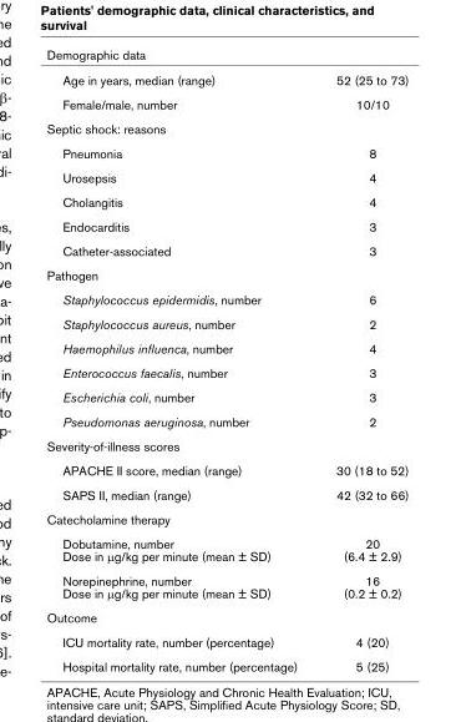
<table><thead><tr><td>Demographic data</td><td></td></tr></thead><tbody><tr><td>Age in years, median (range)</td><td>52 (25 to 73)</td></tr><tr><td>Female/male, number</td><td>10/10</td></tr><tr><td colspan="2">Septic shock: reasons</td></tr><tr><td>Pneumonia</td><td>8</td></tr><tr><td>Urosepsis</td><td>4</td></tr><tr><td>Cholangitis</td><td>4</td></tr><tr><td>Endocarditis</td><td>3</td></tr><tr><td>Catheter-associated</td><td>3</td></tr><tr><td colspan="2">Pathogen</td></tr><tr><td>Staphylococcus epidermidis, number</td><td>6</td></tr><tr><td>Staphylococcus aureus, number</td><td>2</td></tr><tr><td>Haemophilus influenca, number</td><td>4</td></tr><tr><td>Enterococcus faecalis, number</td><td>3</td></tr><tr><td>Escherichia coli, number</td><td>3</td></tr><tr><td>Pseudomonas aeruginosa, number</td><td>2</td></tr><tr><td colspan="2">Severity-of-illness scores</td></tr><tr><td>APACHE II score, median (range)</td><td>30 (18 to 52)</td></tr><tr><td>SAPS II, median (range)</td><td>42 (32 to 66)</td></tr><tr><td colspan="2">Catecholamine therapy</td></tr><tr><td>Dobutamine, number Dose in μg/kg per minute (mean ± SD)</td><td>20 (6.4 ± 2.9)</td></tr><tr><td>Norepinephrine, number Dose in μg/kg per minute (mean ± SD)</td><td>16 (0.2 ± 0.2)</td></tr><tr><td colspan="2">Outcome</td></tr><tr><td>ICU mortality rate, number (percentage)</td><td>4 (20)</td></tr><tr><td>Hospital mortality rate, number (percentage)</td><td>5 (25)</td></tr></tbody></table>